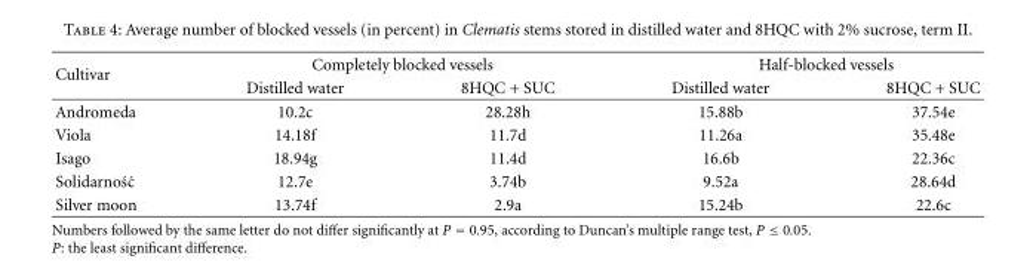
<table><thead><tr><td rowspan="2">Cultivar</td><td colspan="2">Completely blocked vessels</td><td colspan="2">Half-blocked vessels</td></tr><tr><td>Distilled water</td><td>8HQC + SUC</td><td>Distilled water</td><td>8HQC + SUC</td></tr></thead><tbody><tr><td>Andromeda</td><td>10.2c</td><td>28.28h</td><td>15.88b</td><td>37.54e</td></tr><tr><td>Viola</td><td>14.18f</td><td>11.7d</td><td>11.26a</td><td>35.48e</td></tr><tr><td>Isago</td><td>18.94g</td><td>11.4d</td><td>16.6b</td><td>22.36c</td></tr><tr><td>Solidarno´s´c</td><td>12.7e</td><td>3.74b</td><td>9.52a</td><td>28.64d</td></tr><tr><td>Silver moon</td><td>13.74f</td><td>2.9a</td><td>15.24b</td><td>22.6c</td></tr></tbody></table>